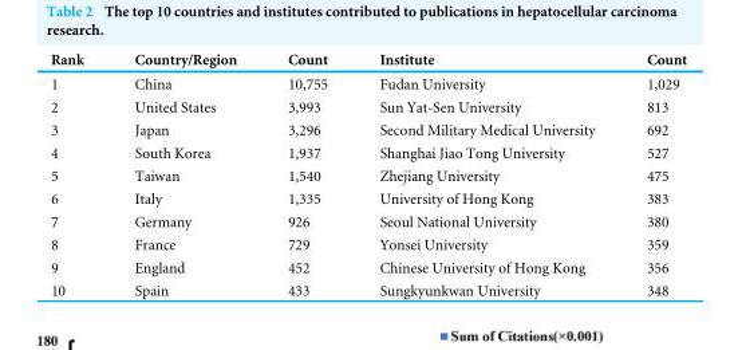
<table><thead><tr><td>Rank</td><td>Country/Region</td><td>Count</td><td>Institute</td><td>Count</td></tr></thead><tbody><tr><td>1</td><td>China</td><td>10,755</td><td>Fudan University</td><td>1,029</td></tr><tr><td>2</td><td>United States</td><td>3,993</td><td>Sun Yat-Sen University</td><td>813</td></tr><tr><td>3</td><td>Japan</td><td>3,296</td><td>Second Military Medical University</td><td>692</td></tr><tr><td>4</td><td>South Korea</td><td>1,937</td><td>Shanghai Jiao Tong University</td><td>527</td></tr><tr><td>5</td><td>Taiwan</td><td>1,540</td><td>Zhejiang University</td><td>475</td></tr><tr><td>6</td><td>Italy</td><td>1,335</td><td>University of Hong Kong</td><td>383</td></tr><tr><td>7</td><td>Germany</td><td>926</td><td>Seoul National University</td><td>380</td></tr><tr><td>8</td><td>France</td><td>729</td><td>Yonsei University</td><td>359</td></tr><tr><td>9</td><td>England</td><td>452</td><td>Chinese University of Hong Kong</td><td>356</td></tr><tr><td>10</td><td>Spain</td><td>433</td><td>Sungkyunkwan University</td><td>348</td></tr></tbody></table>